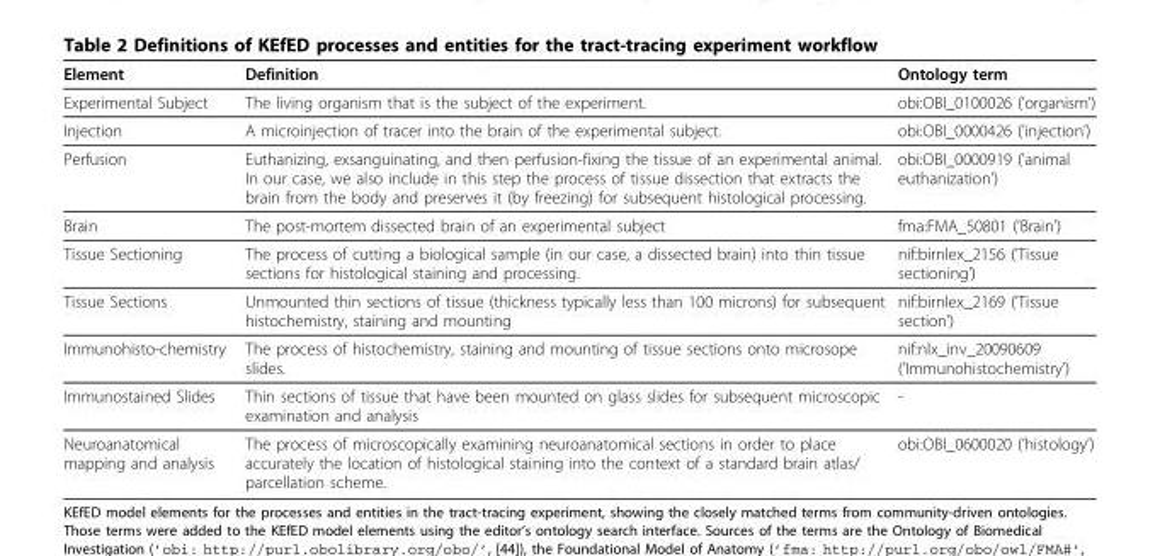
<table><thead><tr><td>Element</td><td>Definition</td><td>Ontology term</td></tr></thead><tbody><tr><td>Experimental Subject</td><td>The living organism that is the subject of the experiment.</td><td>obi:OBI_0100026 (’organism’)</td></tr><tr><td>Injection</td><td>A microinjection of tracer into the brain of the experimental subject.</td><td>obi:OBI_0000426 (’injection’)</td></tr><tr><td>Perfusion</td><td>Euthanizing, exsanguinating, and then perfusion-fixing the tissue of an experimental animal. In our case, we also include in this step the process of tissue dissection that extracts the brain from the body and preserves it (by freezing) for subsequent histological processing.</td><td>obi:OBI_0000919 (’animal euthanization’)</td></tr><tr><td>Brain</td><td>The post-mortem dissected brain of an experimental subject</td><td>fma:FMA_50801 (’Brain’)</td></tr><tr><td>Tissue Sectioning</td><td>The process of cutting a biological sample (in our case, a dissected brain) into thin tissue sections for histological staining and processing.</td><td>nif:birnlex_2156 (’Tissue sectioning’)</td></tr><tr><td>Tissue Sections</td><td>Unmounted thin sections of tissue (thickness typically less than 100 microns) for subsequent histochemistry, staining and mounting</td><td>nif:birnlex_2169 (’Tissue section’)</td></tr><tr><td>Immunohisto-chemistry</td><td>The process of histochemistry, staining and mounting of tissue sections onto microsope slides.</td><td>nif:nlx_inv_20090609 (’Immunohistochemistry’)</td></tr><tr><td>Immunostained Slides</td><td>Thin sections of tissue that have been mounted on glass slides for subsequent microscopic examination and analysis</td><td>-</td></tr><tr><td>Neuroanatomical mapping and analysis</td><td>The process of microscopically examining neuroanatomical sections in order to place accurately the location of histological staining into the context of a standard brain atlas/ parcellation scheme.</td><td>obi:OBI_0600020 (’histology’)</td></tr></tbody></table>